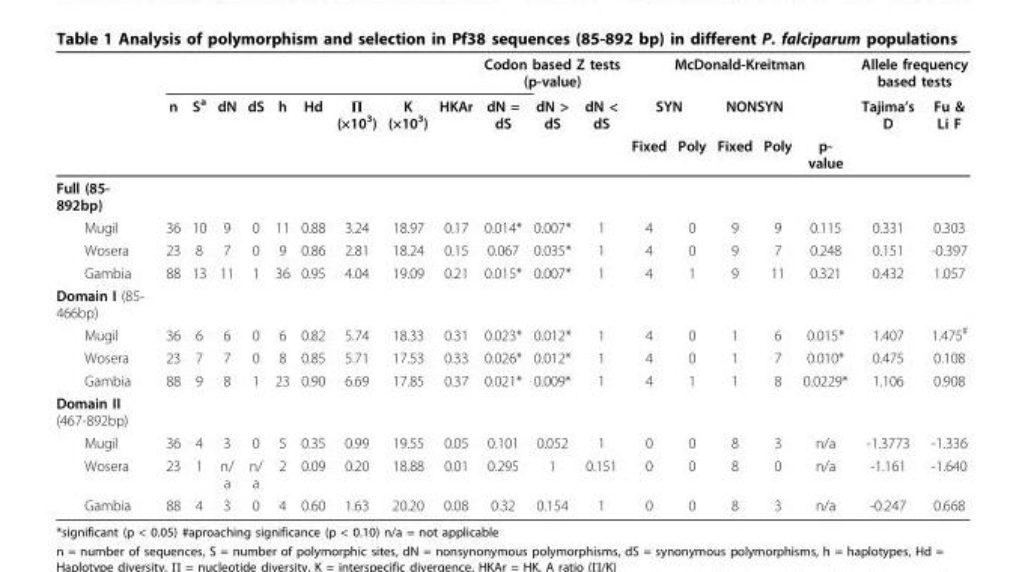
<table><thead><tr><td rowspan="3"></td><td rowspan="3">n</td><td rowspan="3">S<sup>a</sup></td><td rowspan="3">dN</td><td rowspan="3">dS</td><td rowspan="3">h</td><td rowspan="3">Hd</td><td rowspan="3">Π (×10<sup>3</sup>)</td><td rowspan="3">K (×10<sup>3</sup>)</td><td rowspan="3">HKAr</td><td colspan="3">Codon based Z tests (p-value)</td><td colspan="5">McDonald-Kreitman</td><td colspan="2">Allele frequency based tests</td></tr><tr><td rowspan="2">dN = dS</td><td rowspan="2">dN &gt; dS</td><td rowspan="2">dN &lt; dS</td><td colspan="2">SYN</td><td colspan="2">NONSYN</td><td rowspan="2">p- value</td><td rowspan="2">Tajima’s D</td><td rowspan="2">Fu &amp; Li F</td></tr><tr><td>Fixed</td><td>Poly</td><td>Fixed</td><td>Poly</td></tr></thead><tbody><tr><td colspan="20">Full (85- 892bp)</td></tr><tr><td>Mugil</td><td>36</td><td>10</td><td>9</td><td>0</td><td>11</td><td>0.88</td><td>3.24</td><td>18.97</td><td>0.17</td><td>0.014*</td><td>0.007*</td><td>1</td><td>4</td><td>0</td><td>9</td><td>9</td><td>0.115</td><td>0.331</td><td>0.303</td></tr><tr><td>Wosera</td><td>23</td><td>8</td><td>7</td><td>0</td><td>9</td><td>0.86</td><td>2.81</td><td>18.24</td><td>0.15</td><td>0.067</td><td>0.035*</td><td>1</td><td>4</td><td>0</td><td>9</td><td>7</td><td>0.248</td><td>0.151</td><td>-0.397</td></tr><tr><td>Gambia</td><td>88</td><td>13</td><td>11</td><td>1</td><td>36</td><td>0.95</td><td>4.04</td><td>19.09</td><td>0.21</td><td>0.015*</td><td>0.007*</td><td>1</td><td>4</td><td>1</td><td>9</td><td>11</td><td>0.321</td><td>0.432</td><td>1.057</td></tr><tr><td colspan="20">Domain I (85- 466bp)</td></tr><tr><td>Mugil</td><td>36</td><td>6</td><td>6</td><td>0</td><td>6</td><td>0.82</td><td>5.74</td><td>18.33</td><td>0.31</td><td>0.023*</td><td>0.012*</td><td>1</td><td>4</td><td>0</td><td>1</td><td>6</td><td>0.015*</td><td>1.407</td><td>1.475<sup>#</sup></td></tr><tr><td>Wosera</td><td>23</td><td>7</td><td>7</td><td>0</td><td>8</td><td>0.85</td><td>5.71</td><td>17.53</td><td>0.33</td><td>0.026*</td><td>0.012*</td><td>1</td><td>4</td><td>0</td><td>1</td><td>7</td><td>0.010*</td><td>0.475</td><td>0.108</td></tr><tr><td>Gambia</td><td>88</td><td>9</td><td>8</td><td>1</td><td>23</td><td>0.90</td><td>6.69</td><td>17.85</td><td>0.37</td><td>0.021*</td><td>0.009*</td><td>1</td><td>4</td><td>1</td><td>1</td><td>8</td><td>0.0229*</td><td>1.106</td><td>0.908</td></tr><tr><td colspan="20">Domain II (467-892bp)</td></tr><tr><td>Mugil</td><td>36</td><td>4</td><td>3</td><td>0</td><td>5</td><td>0.35</td><td>0.99</td><td>19.55</td><td>0.05</td><td>0.101</td><td>0.052</td><td>1</td><td>0</td><td>0</td><td>8</td><td>3</td><td>n/a</td><td>-1.3773</td><td>-1.336</td></tr><tr><td>Wosera</td><td>23</td><td>1</td><td>n/ a</td><td>n/ a</td><td>2</td><td>0.09</td><td>0.20</td><td>18.88</td><td>0.01</td><td>0.295</td><td>1</td><td>0.151</td><td>0</td><td>0</td><td>8</td><td>0</td><td>n/a</td><td>-1.161</td><td>-1.640</td></tr><tr><td>Gambia</td><td>88</td><td>4</td><td>3</td><td>0</td><td>4</td><td>0.60</td><td>1.63</td><td>20.20</td><td>0.08</td><td>0.32</td><td>0.154</td><td>1</td><td>0</td><td>0</td><td>8</td><td>3</td><td>n/a</td><td>-0.247</td><td>0.668</td></tr></tbody></table>